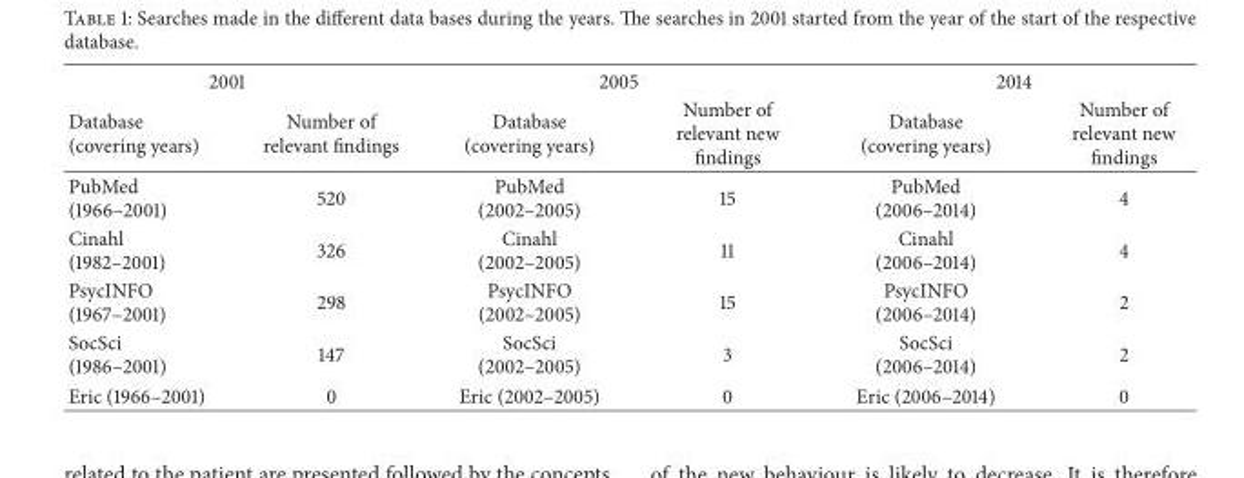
<table><thead><tr><td colspan="2">2001</td><td colspan="2">2005</td><td colspan="2">2014</td></tr><tr><td>Database (covering years)</td><td>Number of relevant findings</td><td>Database (covering years)</td><td>Number of relevant new findings</td><td>Database (covering years)</td><td>Number of relevant new findings</td></tr></thead><tbody><tr><td>PubMed (1966–2001)</td><td>520</td><td>PubMed (2002–2005)</td><td>15</td><td>PubMed (2006–2014)</td><td>4</td></tr><tr><td>Cinahl (1982–2001)</td><td>326</td><td>Cinahl (2002–2005)</td><td>11</td><td>Cinahl (2006–2014)</td><td>4</td></tr><tr><td>PsycINFO (1967–2001)</td><td>298</td><td>PsycINFO (2002–2005)</td><td>15</td><td>PsycINFO (2006–2014)</td><td>2</td></tr><tr><td>SocSci (1986–2001)</td><td>147</td><td>SocSci (2002–2005)</td><td>3</td><td>SocSci (2006–2014)</td><td>2</td></tr><tr><td>Eric (1966–2001)</td><td>0</td><td>Eric (2002–2005)</td><td>0</td><td>Eric (2006–2014)</td><td>0</td></tr></tbody></table>